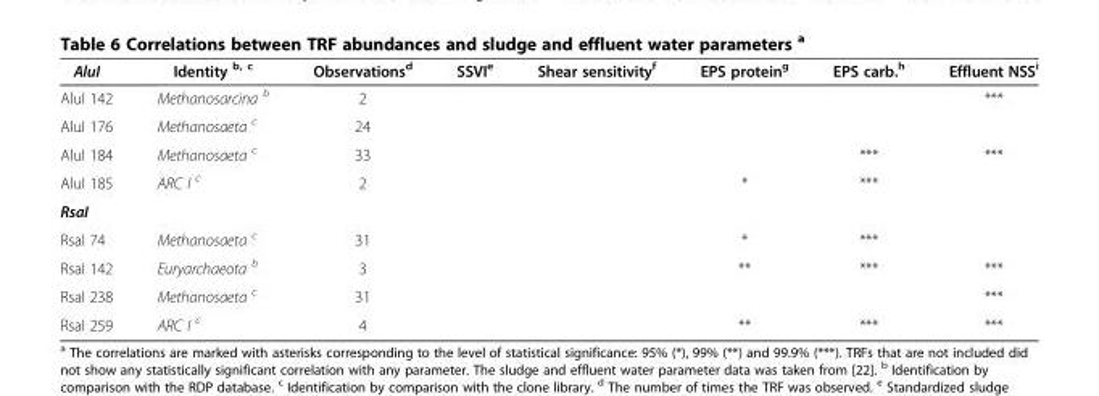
<table><thead><tr><td>AluI</td><td>Identity <sup>b, c</sup></td><td>Observations<sup>d</sup></td><td>SSVI<sup>e</sup></td><td>Shear sensitivity<sup>f</sup></td><td>EPS protein<sup>g</sup></td><td>EPS carb.<sup>h</sup></td><td>Effluent NSS<sup>i</sup></td></tr></thead><tbody><tr><td>AluI 142</td><td>Methanosarcina <sup>b</sup></td><td>2</td><td></td><td></td><td></td><td></td><td>***</td></tr><tr><td>AluI 176</td><td>Methanosaeta <sup>c</sup></td><td>24</td><td></td><td></td><td></td><td></td><td></td></tr><tr><td>AluI 184</td><td>Methanosaeta <sup>c</sup></td><td>33</td><td></td><td></td><td></td><td>***</td><td>***</td></tr><tr><td>AluI 185</td><td>ARC I <sup>c</sup></td><td>2</td><td></td><td></td><td>*</td><td>***</td><td></td></tr><tr><td colspan="8">RsaI</td></tr><tr><td>RsaI 74</td><td>Methanosaeta <sup>c</sup></td><td>31</td><td></td><td></td><td>*</td><td>***</td><td></td></tr><tr><td>RsaI 142</td><td>Euryarchaeota <sup>b</sup></td><td>3</td><td></td><td></td><td>**</td><td>***</td><td>***</td></tr><tr><td>RsaI 238</td><td>Methanosaeta <sup>c</sup></td><td>31</td><td></td><td></td><td></td><td></td><td>***</td></tr><tr><td>RsaI 259</td><td>ARC I <sup>c</sup></td><td>4</td><td></td><td></td><td>**</td><td>***</td><td>***</td></tr></tbody></table>